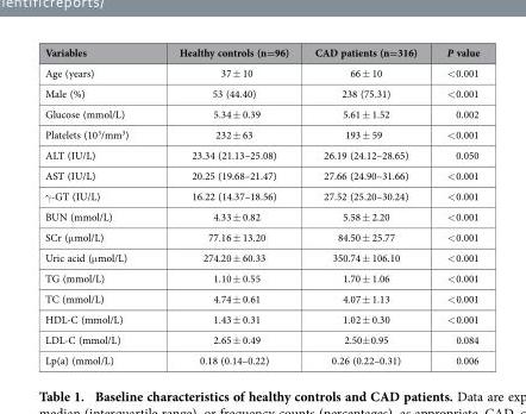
<table><thead><tr><td>Variables</td><td>Healthy controls (n=96)</td><td>CAD patients (n=316)</td><td>P value</td></tr></thead><tbody><tr><td>Age (years)</td><td>37 ± 10</td><td>66 ± 10</td><td>&lt; 0.001</td></tr><tr><td>Male (%)</td><td>53 (44.40)</td><td>238 (75.31)</td><td>&lt; 0.001</td></tr><tr><td>Glucose (mmol/L)</td><td>5.34 ± 0.39</td><td>5.61 ± 1.52</td><td>0.002</td></tr><tr><td>Platelets (10<sup>3</sup>/mm<sup>3</sup>)</td><td>232 ± 63</td><td>193 ± 59</td><td>&lt; 0.001</td></tr><tr><td>ALT (IU/L)</td><td>23.34 (21.13–25.08)</td><td>26.19 (24.12–28.65)</td><td>0.050</td></tr><tr><td>AST (IU/L)</td><td>20.25 (19.68–21.47)</td><td>27.66 (24.90–31.66)</td><td>&lt; 0.001</td></tr><tr><td>γ -GT (IU/L)</td><td>16.22 (14.37–18.56)</td><td>27.52 (25.20–30.24)</td><td>&lt; 0.001</td></tr><tr><td>BUN (mmol/L)</td><td>4.33 ± 0.82</td><td>5.58 ± 2.20</td><td>&lt; 0.001</td></tr><tr><td>SCr (μ mol/L)</td><td>77.16 ± 13.20</td><td>84.50 ± 25.77</td><td>&lt; 0.001</td></tr><tr><td>Uric acid (μ mol/L)</td><td>274.20 ± 60.33</td><td>350.74 ± 106.10</td><td>&lt; 0.001</td></tr><tr><td>TG (mmol/L)</td><td>1.10 ± 0.55</td><td>1.70 ± 1.06</td><td>&lt; 0.001</td></tr><tr><td>TC (mmol/L)</td><td>4.74 ± 0.61</td><td>4.07 ± 1.13</td><td>&lt; 0.001</td></tr><tr><td>HDL-C (mmol/L)</td><td>1.43 ± 0.31</td><td>1.02 ± 0.30</td><td>&lt; 0.001</td></tr><tr><td>LDL-C (mmol/L)</td><td>2.65 ± 0.49</td><td>2.50± 0.95</td><td>0.084</td></tr><tr><td>Lp(a) (mmol/L)</td><td>0.18 (0.14–0.22)</td><td>0.26 (0.22–0.31)</td><td>0.006</td></tr></tbody></table>